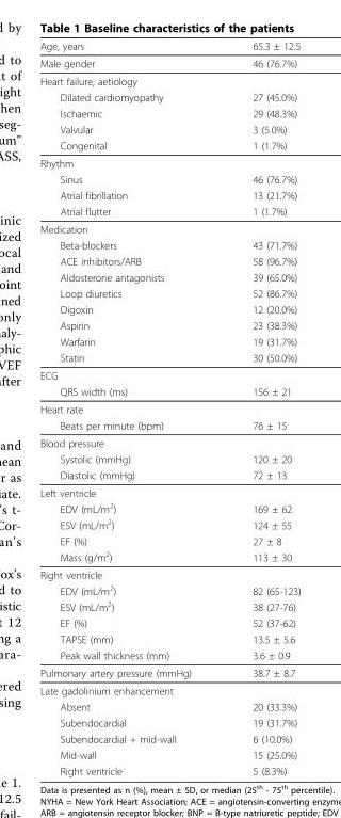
<table><thead><tr><td>Age, years</td><td>65.3 ± 12.5</td></tr></thead><tbody><tr><td>Male gender</td><td>46 (76.7%)</td></tr><tr><td colspan="2">Heart failure, aetiology</td></tr><tr><td>Dilated cardiomyopathy</td><td>27 (45.0%)</td></tr><tr><td>Ischaemic</td><td>29 (48.3%)</td></tr><tr><td>Valvular</td><td>3 (5.0%)</td></tr><tr><td>Congenital</td><td>1 (1.7%)</td></tr><tr><td colspan="2">Rhythm</td></tr><tr><td>Sinus</td><td>46 (76.7%)</td></tr><tr><td>Atrial fibrillation</td><td>13 (21.7%)</td></tr><tr><td>Atrial flutter</td><td>1 (1.7%)</td></tr><tr><td colspan="2">Medication</td></tr><tr><td>Beta-blockers</td><td>43 (71.7%)</td></tr><tr><td>ACE inhibitors/ARB</td><td>58 (96.7%)</td></tr><tr><td>Aldosterone antagonists</td><td>39 (65.0%)</td></tr><tr><td>Loop diuretics</td><td>52 (86.7%)</td></tr><tr><td>Digoxin</td><td>12 (20.0%)</td></tr><tr><td>Aspirin</td><td>23 (38.3%)</td></tr><tr><td>Warfarin</td><td>19 (31.7%)</td></tr><tr><td>Statin</td><td>30 (50.0%)</td></tr><tr><td colspan="2">ECG</td></tr><tr><td>QRS width (ms)</td><td>156 ± 21</td></tr><tr><td colspan="2">Heart rate</td></tr><tr><td>Beats per minute (bpm)</td><td>76 ± 15</td></tr><tr><td colspan="2">Blood pressure</td></tr><tr><td>Systolic (mmHg)</td><td>120 ± 20</td></tr><tr><td>Diastolic (mmHg)</td><td>72 ± 13</td></tr><tr><td colspan="2">Left ventricle</td></tr><tr><td>EDV (mL/m<sup>2</sup>)</td><td>169 ± 62</td></tr><tr><td>ESV (mL/m<sup>2</sup>)</td><td>124 ± 55</td></tr><tr><td>EF (%)</td><td>27 ± 8</td></tr><tr><td>Mass (g/m<sup>2</sup>)</td><td>113 ± 30</td></tr><tr><td colspan="2">Right ventricle</td></tr><tr><td>EDV (mL/m<sup>2</sup>)</td><td>82 (65-123)</td></tr><tr><td>ESV (mL/m<sup>2</sup>)</td><td>38 (27-76)</td></tr><tr><td>EF (%)</td><td>52 (37-62)</td></tr><tr><td>TAPSE (mm)</td><td>13.5 ± 5.6</td></tr><tr><td>Peak wall thickness (mm)</td><td>3.6 ± 0.9</td></tr><tr><td>Pulmonary artery pressure (mmHg)</td><td>38.7 ± 8.7</td></tr><tr><td colspan="2">Late gadolinium enhancement</td></tr><tr><td>Absent</td><td>20 (33.3%)</td></tr><tr><td>Subendocardial</td><td>19 (31.7%)</td></tr><tr><td>Subendocardial + mid-wall</td><td>6 (10.0%)</td></tr><tr><td>Mid-wall</td><td>15 (25.0%)</td></tr><tr><td>Right ventricle</td><td>5 (8.3%)</td></tr></tbody></table>